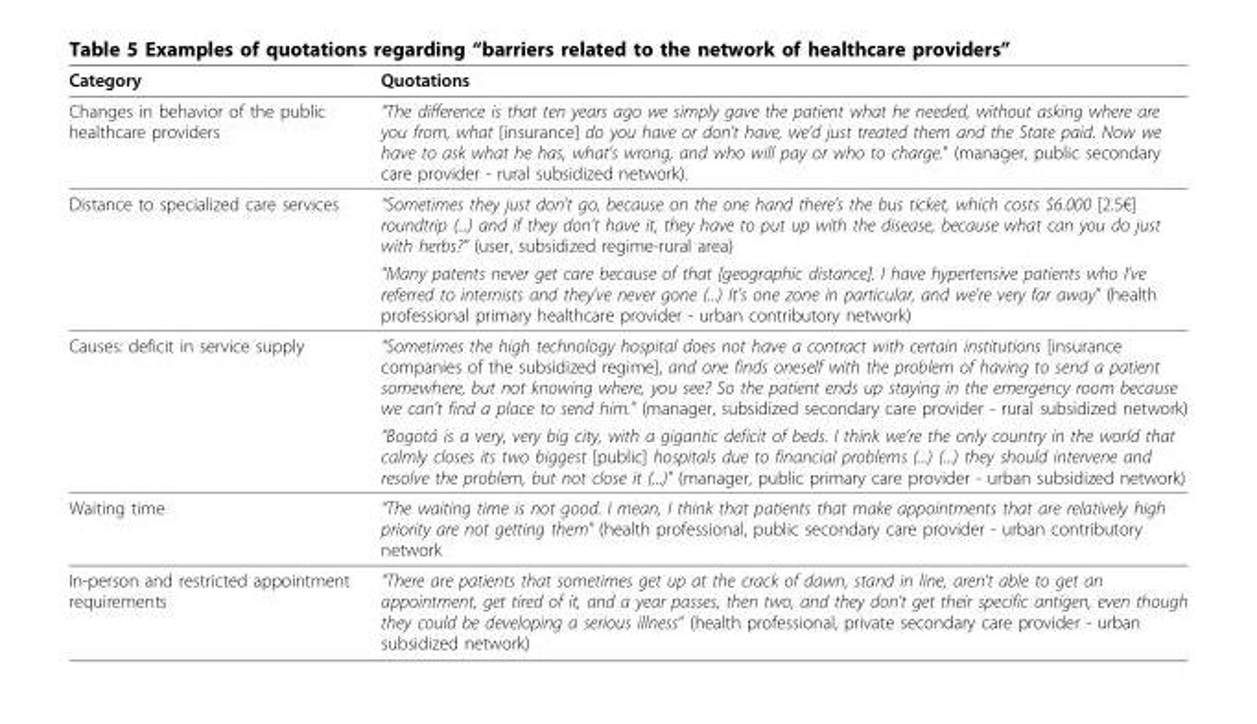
<table><thead><tr><td>Category</td><td>Quotations</td></tr></thead><tbody><tr><td>Changes in behavior of the public healthcare providers</td><td>“The difference is that ten years ago we simply gave the patient what he needed, without asking where are you from, what [insurance] do you have or don’t have, we’d just treated them and the State paid. Now we have to ask what he has, what’s wrong, and who will pay or who to charge.” (manager, public secondary care provider - rural subsidized network).</td></tr><tr><td rowspan="2">Distance to specialized care services</td><td>“Sometimes they just don’t go, because on the one hand there’s the bus ticket, which costs $6.000 [2.5€] roundtrip (...) and if they don’t have it, they have to put up with the disease, because what can you do just with herbs?” (user, subsidized regime-rural area)</td></tr><tr><td>“Many patents never get care because of that [geographic distance]. I have hypertensive patients who I’ve referred to internists and they’ve never gone (...) It’s one zone in particular, and we’re very far away” (health professional primary healthcare provider - urban contributory network)</td></tr><tr><td rowspan="2">Causes: deficit in service supply</td><td>“Sometimes the high technology hospital does not have a contract with certain institutions [insurance companies of the subsidized regime], and one finds oneself with the problem of having to send a patient somewhere, but not knowing where, you see? So the patient ends up staying in the emergency room because we can’t find a place to send him.” (manager, subsidized secondary care provider - rural subsidized network)</td></tr><tr><td>“Bogotá is a very, very big city, with a gigantic deficit of beds. I think we’re the only country in the world that calmly closes its two biggest [public] hospitals due to financial problems (...) (...) they should intervene and resolve the problem, but not close it (...)” (manager, public primary care provider - urban subsidized network)</td></tr><tr><td>Waiting time</td><td>“The waiting time is not good. I mean, I think that patients that make appointments that are relatively high priority are not getting them” (health professional, public secondary care provider - urban contributory network</td></tr><tr><td>In-person and restricted appointment requirements</td><td>“There are patients that sometimes get up at the crack of dawn, stand in line, aren’t able to get an appointment, get tired of it, and a year passes, then two, and they don’t get their specific antigen, even though they could be developing a serious illness“ (health professional, private secondary care provider - urban subsidized network)</td></tr></tbody></table>